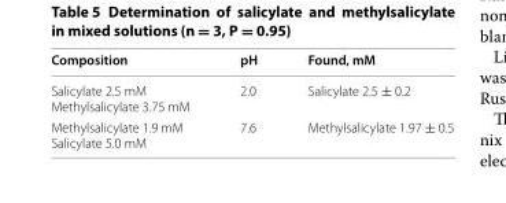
<table><thead><tr><td>Composition</td><td>pH</td><td>Found, mM</td></tr></thead><tbody><tr><td>Salicylate 2.5 mM Methylsalicylate 3.75 mM</td><td>2.0</td><td>Salicylate 2.5 ± 0.2</td></tr><tr><td>Methylsalicylate 1.9 mM Salicylate 5.0 mM</td><td>7.6</td><td>Methylsalicylate 1.97 ± 0.5</td></tr></tbody></table>